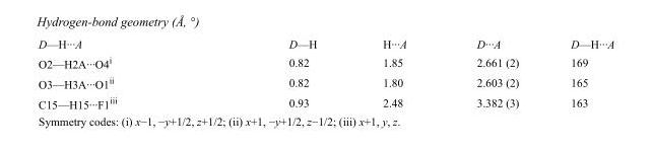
<table><tbody><tr><td>D—H···A</td><td>D—H</td><td>H···A</td><td>D···A</td><td>D—H···A</td></tr><tr><td>O2—H2A···O4<sup>i</sup></td><td>0.82</td><td>1.85</td><td>2.661 (2)</td><td>169</td></tr><tr><td>O3—H3A···O1<sup>ii</sup></td><td>0.82</td><td>1.80</td><td>2.603 (2)</td><td>165</td></tr><tr><td>C15—H15···F1<sup>iii</sup></td><td>0.93</td><td>2.48</td><td>3.382 (3)</td><td>163</td></tr></tbody></table>